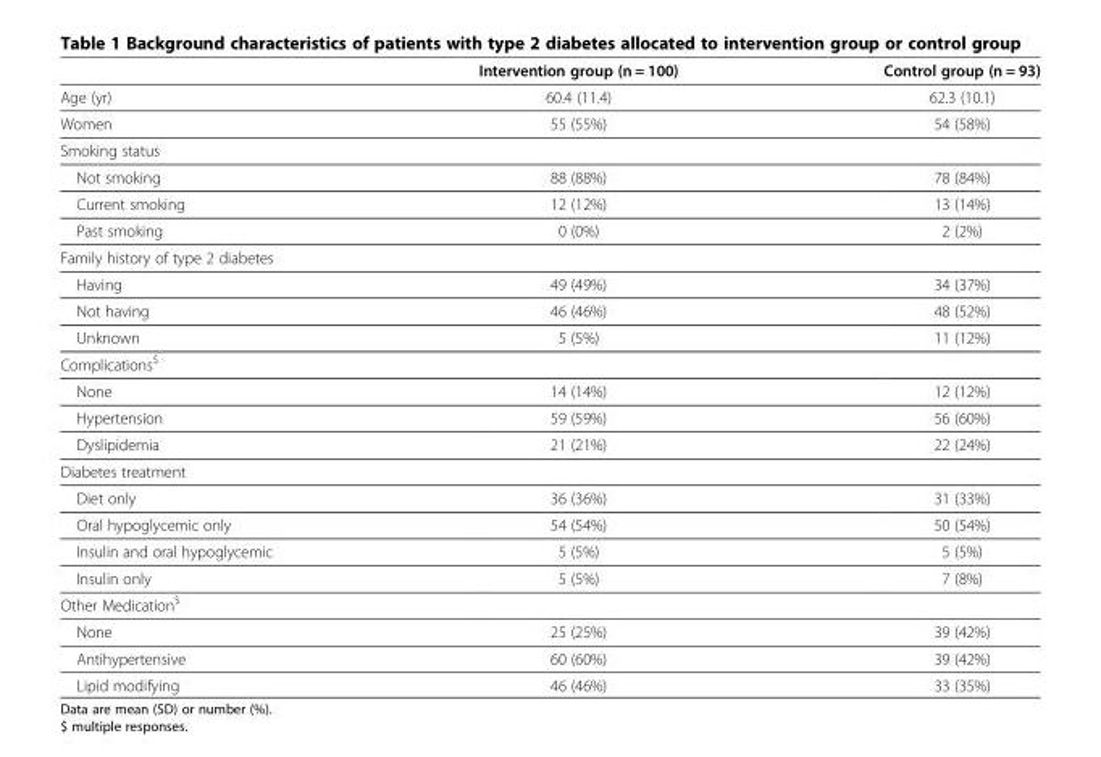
<table><thead><tr><td></td><td>Intervention group (n = 100)</td><td>Control group (n = 93)</td></tr></thead><tbody><tr><td>Age (yr)</td><td>60.4 (11.4)</td><td>62.3 (10.1)</td></tr><tr><td>Women</td><td>55 (55%)</td><td>54 (58%)</td></tr><tr><td colspan="3">Smoking status</td></tr><tr><td>Not smoking</td><td>88 (88%)</td><td>78 (84%)</td></tr><tr><td>Current smoking</td><td>12 (12%)</td><td>13 (14%)</td></tr><tr><td>Past smoking</td><td>0 (0%)</td><td>2 (2%)</td></tr><tr><td colspan="3">Family history of type 2 diabetes</td></tr><tr><td>Having</td><td>49 (49%)</td><td>34 (37%)</td></tr><tr><td>Not having</td><td>46 (46%)</td><td>48 (52%)</td></tr><tr><td>Unknown</td><td>5 (5%)</td><td>11 (12%)</td></tr><tr><td colspan="3">Complications<sup>$</sup></td></tr><tr><td>None</td><td>14 (14%)</td><td>12 (12%)</td></tr><tr><td>Hypertension</td><td>59 (59%)</td><td>56 (60%)</td></tr><tr><td>Dyslipidemia</td><td>21 (21%)</td><td>22 (24%)</td></tr><tr><td colspan="3">Diabetes treatment</td></tr><tr><td>Diet only</td><td>36 (36%)</td><td>31 (33%)</td></tr><tr><td>Oral hypoglycemic only</td><td>54 (54%)</td><td>50 (54%)</td></tr><tr><td>Insulin and oral hypoglycemic</td><td>5 (5%)</td><td>5 (5%)</td></tr><tr><td>Insulin only</td><td>5 (5%)</td><td>7 (8%)</td></tr><tr><td colspan="3">Other Medication<sup>$</sup></td></tr><tr><td>None</td><td>25 (25%)</td><td>39 (42%)</td></tr><tr><td>Antihypertensive</td><td>60 (60%)</td><td>39 (42%)</td></tr><tr><td>Lipid modifying</td><td>46 (46%)</td><td>33 (35%)</td></tr></tbody></table>